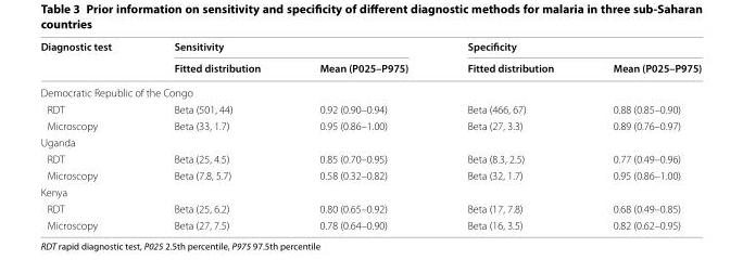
<table><thead><tr><td rowspan="2">Diagnostic test</td><td colspan="2">Sensitivity</td><td colspan="2">Specificity</td></tr><tr><td>Fitted distribution</td><td>Mean (P025–P975)</td><td>Fitted distribution</td><td>Mean (P025–P975)</td></tr></thead><tbody><tr><td colspan="5">Democratic Republic of the Congo</td></tr><tr><td>RDT</td><td>Beta (501, 44)</td><td>0.92 (0.90–0.94)</td><td>Beta (466, 67)</td><td>0.88 (0.85–0.90)</td></tr><tr><td>Microscopy</td><td>Beta (33, 1.7)</td><td>0.95 (0.86–1.00)</td><td>Beta (27, 3.3)</td><td>0.89 (0.76–0.97)</td></tr><tr><td colspan="5">Uganda</td></tr><tr><td>RDT</td><td>Beta (25, 4.5)</td><td>0.85 (0.70–0.95)</td><td>Beta (8.3, 2.5)</td><td>0.77 (0.49–0.96)</td></tr><tr><td>Microscopy</td><td>Beta (7.8, 5.7)</td><td>0.58 (0.32–0.82)</td><td>Beta (32, 1.7)</td><td>0.95 (0.86–1.00)</td></tr><tr><td colspan="5">Kenya</td></tr><tr><td>RDT</td><td>Beta (25, 6.2)</td><td>0.80 (0.65–0.92)</td><td>Beta (17, 7.8)</td><td>0.68 (0.49–0.85)</td></tr><tr><td>Microscopy</td><td>Beta (27, 7.5)</td><td>0.78 (0.64–0.90)</td><td>Beta (16, 3.5)</td><td>0.82 (0.62–0.95)</td></tr></tbody></table>